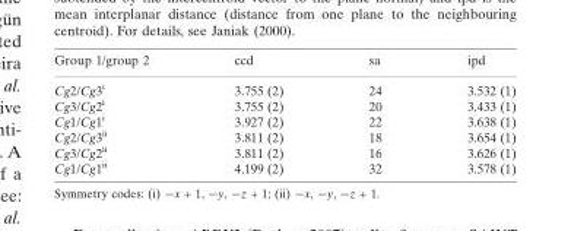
<table><tbody><tr><td>Group 1/group 2</td><td>ccd</td><td>sa</td><td>ipd</td></tr><tr><td>Cg2/Cg3<sup>i</sup></td><td>3.755 (2)</td><td>24</td><td>3.532 (1)</td></tr><tr><td>Cg3/Cg2<sup>i</sup></td><td>3.755 (2)</td><td>20</td><td>3.433 (1)</td></tr><tr><td>Cg1/Cg1<sup>i</sup></td><td>3.927 (2)</td><td>22</td><td>3.638 (1)</td></tr><tr><td>Cg2/Cg3<sup>ii</sup></td><td>3.811 (2)</td><td>18</td><td>3.654 (1)</td></tr><tr><td>Cg3/Cg2<sup>ii</sup></td><td>3.811 (2)</td><td>16</td><td>3.626 (1)</td></tr><tr><td>Cg1/Cg1<sup>ii</sup></td><td>4.199 (2)</td><td>32</td><td>3.578 (1)</td></tr></tbody></table>